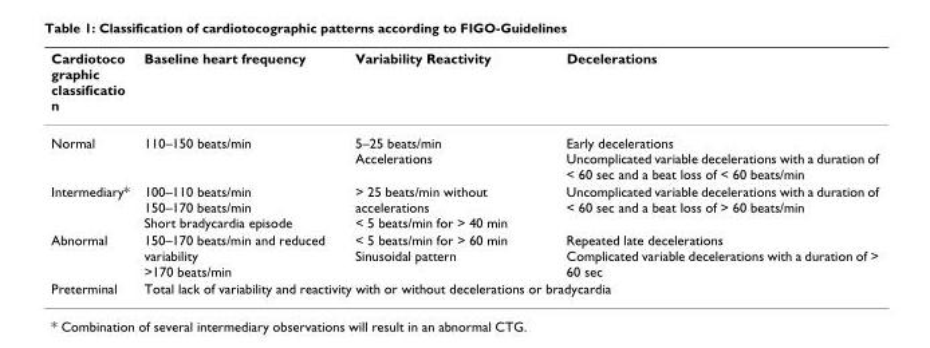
<table><thead><tr><td>Cardiotoco graphic classificatio n</td><td>Baseline heart frequency</td><td>Variability Reactivity</td><td>Decelerations</td></tr></thead><tbody><tr><td>Normal</td><td>110–150 beats/min</td><td>5–25 beats/min Accelerations</td><td>Early decelerations Uncomplicated variable decelerations with a duration of &lt; 60 sec and a beat loss of &lt; 60 beats/min</td></tr><tr><td>Intermediary*</td><td>100–110 beats/min 150–170 beats/min Short bradycardia episode</td><td>&gt; 25 beats/min without accelerations &lt; 5 beats/min for &gt; 40 min</td><td>Uncomplicated variable decelerations with a duration of &lt; 60 sec and a beat loss of &gt; 60 beats/min</td></tr><tr><td>Abnormal</td><td>150–170 beats/min and reduced variability &gt;170 beats/min</td><td>&lt; 5 beats/min for &gt; 60 min Sinusoidal pattern</td><td>Repeated late decelerations Complicated variable decelerations with a duration of &gt; 60 sec</td></tr><tr><td>Preterminal</td><td colspan="3">Total lack of variability and reactivity with or without decelerations or bradycardia</td></tr></tbody></table>